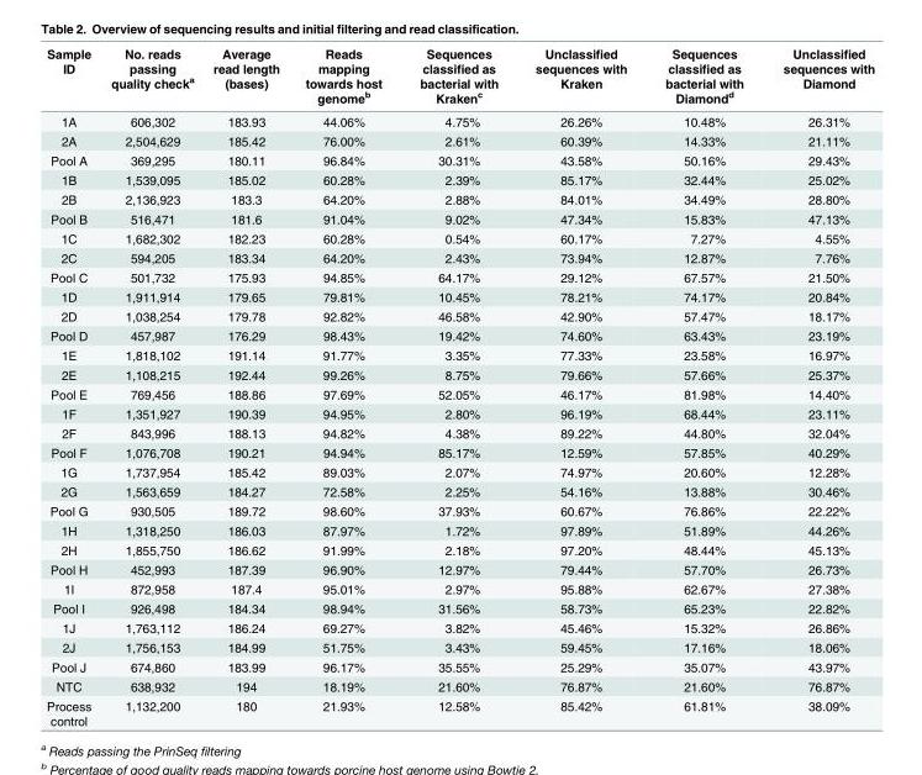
<table><thead><tr><td>Sample ID</td><td>No. reads passing quality check<sup>a</sup></td><td>Average read length (bases)</td><td>Reads mapping towards host genome<sup>b</sup></td><td>Sequences classified as bacterial with Kraken<sup>c</sup></td><td>Unclassified sequences with Kraken</td><td>Sequences classified as bacterial with Diamond<sup>d</sup></td><td>Unclassified sequences with Diamond</td></tr></thead><tbody><tr><td>1A</td><td>606,302</td><td>183.93</td><td>44.06%</td><td>4.75%</td><td>26.26%</td><td>10.48%</td><td>26.31%</td></tr><tr><td>2A</td><td>2,504,629</td><td>185.42</td><td>76.00%</td><td>2.61%</td><td>60.39%</td><td>14.33%</td><td>21.11%</td></tr><tr><td>Pool A</td><td>369,295</td><td>180.11</td><td>96.84%</td><td>30.31%</td><td>43.58%</td><td>50.16%</td><td>29.43%</td></tr><tr><td>1B</td><td>1,539,095</td><td>185.02</td><td>60.28%</td><td>2.39%</td><td>85.17%</td><td>32.44%</td><td>25.02%</td></tr><tr><td>2B</td><td>2,136,923</td><td>183.3</td><td>64.20%</td><td>2.88%</td><td>84.01%</td><td>34.49%</td><td>28.80%</td></tr><tr><td>Pool B</td><td>516,471</td><td>181.6</td><td>91.04%</td><td>9.02%</td><td>47.34%</td><td>15.83%</td><td>47.13%</td></tr><tr><td>1C</td><td>1,682,302</td><td>182.23</td><td>60.28%</td><td>0.54%</td><td>60.17%</td><td>7.27%</td><td>4.55%</td></tr><tr><td>2C</td><td>594,205</td><td>183.34</td><td>64.20%</td><td>2.43%</td><td>73.94%</td><td>12.87%</td><td>7.76%</td></tr><tr><td>Pool C</td><td>501,732</td><td>175.93</td><td>94.85%</td><td>64.17%</td><td>29.12%</td><td>67.57%</td><td>21.50%</td></tr><tr><td>1D</td><td>1,911,914</td><td>179.65</td><td>79.81%</td><td>10.45%</td><td>78.21%</td><td>74.17%</td><td>20.84%</td></tr><tr><td>2D</td><td>1,038,254</td><td>179.78</td><td>92.82%</td><td>46.58%</td><td>42.90%</td><td>57.47%</td><td>18.17%</td></tr><tr><td>Pool D</td><td>457,987</td><td>176.29</td><td>98.43%</td><td>19.42%</td><td>74.60%</td><td>63.43%</td><td>23.19%</td></tr><tr><td>1E</td><td>1,818,102</td><td>191.14</td><td>91.77%</td><td>3.35%</td><td>77.33%</td><td>23.58%</td><td>16.97%</td></tr><tr><td>2E</td><td>1,108,215</td><td>192.44</td><td>99.26%</td><td>8.75%</td><td>79.66%</td><td>57.66%</td><td>25.37%</td></tr><tr><td>Pool E</td><td>769,456</td><td>188.86</td><td>97.69%</td><td>52.05%</td><td>46.17%</td><td>81.98%</td><td>14.40%</td></tr><tr><td>1F</td><td>1,351,927</td><td>190.39</td><td>94.95%</td><td>2.80%</td><td>96.19%</td><td>68.44%</td><td>23.11%</td></tr><tr><td>2F</td><td>843,996</td><td>188.13</td><td>94.82%</td><td>4.38%</td><td>89.22%</td><td>44.80%</td><td>32.04%</td></tr><tr><td>Pool F</td><td>1,076,708</td><td>190.21</td><td>94.94%</td><td>85.17%</td><td>12.59%</td><td>57.85%</td><td>40.29%</td></tr><tr><td>1G</td><td>1,737,954</td><td>185.42</td><td>89.03%</td><td>2.07%</td><td>74.97%</td><td>20.60%</td><td>12.28%</td></tr><tr><td>2G</td><td>1,563,659</td><td>184.27</td><td>72.58%</td><td>2.25%</td><td>54.16%</td><td>13.88%</td><td>30.46%</td></tr><tr><td>Pool G</td><td>930,505</td><td>189.72</td><td>98.60%</td><td>37.93%</td><td>60.67%</td><td>76.86%</td><td>22.22%</td></tr><tr><td>1H</td><td>1,318,250</td><td>186.03</td><td>87.97%</td><td>1.72%</td><td>97.89%</td><td>51.89%</td><td>44.26%</td></tr><tr><td>2H</td><td>1,855,750</td><td>186.62</td><td>91.99%</td><td>2.18%</td><td>97.20%</td><td>48.44%</td><td>45.13%</td></tr><tr><td>Pool H</td><td>452,993</td><td>187.39</td><td>96.90%</td><td>12.97%</td><td>79.44%</td><td>57.70%</td><td>26.73%</td></tr><tr><td>1I</td><td>872,958</td><td>187.4</td><td>95.01%</td><td>2.97%</td><td>95.88%</td><td>62.67%</td><td>27.38%</td></tr><tr><td>Pool I</td><td>926,498</td><td>184.34</td><td>98.94%</td><td>31.56%</td><td>58.73%</td><td>65.23%</td><td>22.82%</td></tr><tr><td>1J</td><td>1,763,112</td><td>186.24</td><td>69.27%</td><td>3.82%</td><td>45.46%</td><td>15.32%</td><td>26.86%</td></tr><tr><td>2J</td><td>1,756,153</td><td>184.99</td><td>51.75%</td><td>3.43%</td><td>59.45%</td><td>17.16%</td><td>18.06%</td></tr><tr><td>Pool J</td><td>674,860</td><td>183.99</td><td>96.17%</td><td>35.55%</td><td>25.29%</td><td>35.07%</td><td>43.97%</td></tr><tr><td>NTC</td><td>638,932</td><td>194</td><td>18.19%</td><td>21.60%</td><td>76.87%</td><td>21.60%</td><td>76.87%</td></tr><tr><td>Process control</td><td>1,132,200</td><td>180</td><td>21.93%</td><td>12.58%</td><td>85.42%</td><td>61.81%</td><td>38.09%</td></tr></tbody></table>